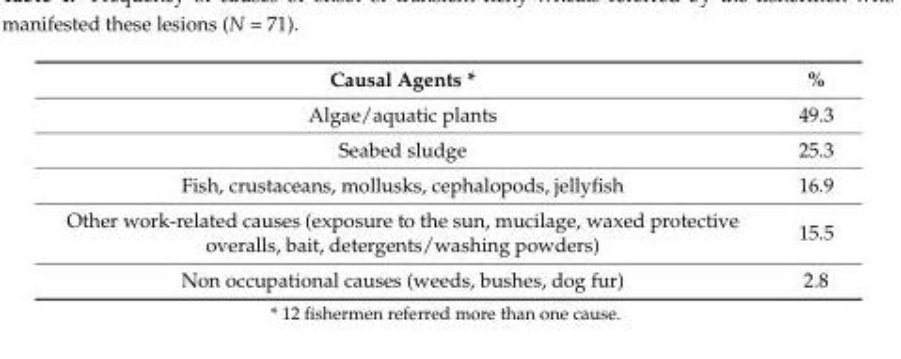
<table><thead><tr><td>Causal Agents *</td><td>%</td></tr></thead><tbody><tr><td>Algae/aquatic plants</td><td>49.3</td></tr><tr><td>Seabed sludge</td><td>25.3</td></tr><tr><td>Fish, crustaceans, mollusks, cephalopods, jellyfish</td><td>16.9</td></tr><tr><td>Other work-related causes (exposure to the sun, mucilage, waxed protective overalls, bait, detergents/washing powders)</td><td>15.5</td></tr><tr><td>Non occupational causes (weeds, bushes, dog fur)</td><td>2.8</td></tr></tbody></table>